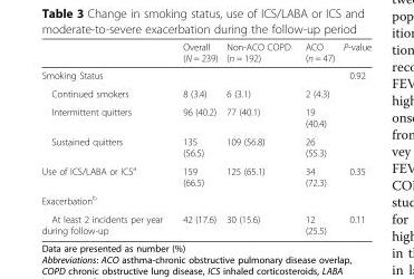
<table><thead><tr><td></td><td>Overall (N = 239)</td><td>Non-ACO COPD (n = 192)</td><td>ACO (n = 47)</td><td>P-value</td></tr></thead><tbody><tr><td>Smoking Status</td><td></td><td></td><td></td><td>0.92</td></tr><tr><td>Continued smokers</td><td>8 (3.4)</td><td>6 (3.1)</td><td>2 (4.3)</td><td></td></tr><tr><td>Intermittent quitters</td><td>96 (40.2)</td><td>77 (40.1)</td><td>19 (40.4)</td><td></td></tr><tr><td>Sustained quitters</td><td>135 (56.5)</td><td>109 (56.8)</td><td>26 (55.3)</td><td></td></tr><tr><td>Use of ICS/LABA or ICS<sup>a</sup></td><td>159 (66.5)</td><td>125 (65.1)</td><td>34 (72.3)</td><td>0.35</td></tr><tr><td colspan="5">Exacerbation<sup>b</sup></td></tr><tr><td>At least 2 incidents per year during follow-up</td><td>42 (17.6)</td><td>30 (15.6)</td><td>12 (25.5)</td><td>0.11</td></tr></tbody></table>